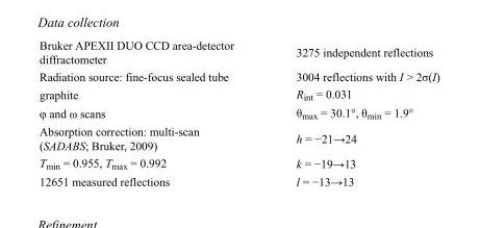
<table><tbody><tr><td>Bruker APEXII DUO CCD area-detector diffractometer</td><td>3275 independent reflections</td></tr><tr><td>Radiation source: fine-focus sealed tube</td><td>3004 reflections with I &gt; 2σ(I)</td></tr><tr><td>graphite</td><td>R<sub>int</sub> = 0.031</td></tr><tr><td>φ and ω scans</td><td>θ<sub>max</sub> = 30.1°, θ<sub>min</sub> = 1.9°</td></tr><tr><td>Absorption correction: multi-scan (SADABS; Bruker, 2009)</td><td>h = −21→24</td></tr><tr><td>T<sub>min</sub> = 0.955, T<sub>max</sub> = 0.992</td><td>k = −19→13</td></tr><tr><td>12651 measured reflections</td><td>l = −13→13</td></tr></tbody></table>